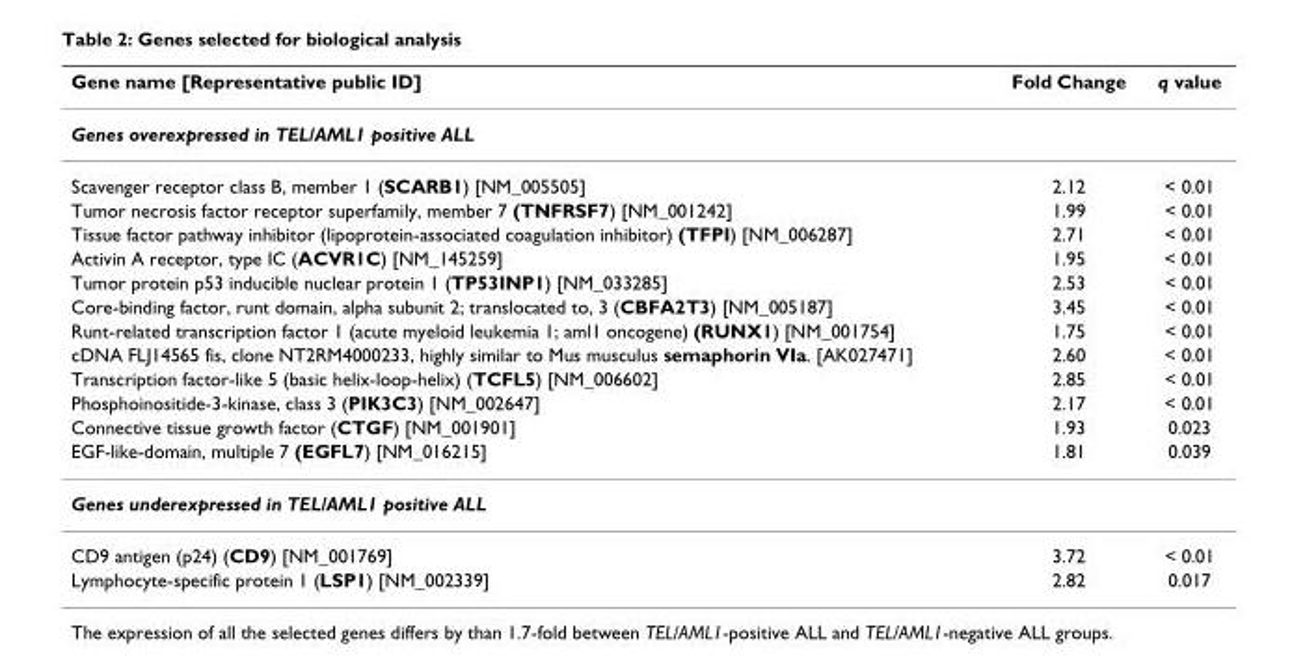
<table><thead><tr><td>Gene name [Representative public ID]</td><td>Fold Change</td><td>q value</td></tr></thead><tbody><tr><td colspan="3">Genes overexpressed in TEL/AML1 positive ALL</td></tr><tr><td>Scavenger receptor class B, member 1 (SCARB1) [NM_005505]</td><td>2.12</td><td>&lt; 0.01</td></tr><tr><td>Tumor necrosis factor receptor superfamily, member 7 (TNFRSF7) [NM_001242]</td><td>1.99</td><td>&lt; 0.01</td></tr><tr><td>Tissue factor pathway inhibitor (lipoprotein-associated coagulation inhibitor) (TFPI) [NM_006287]</td><td>2.71</td><td>&lt; 0.01</td></tr><tr><td>Activin A receptor, type IC (ACVR1C) [NM_145259]</td><td>1.95</td><td>&lt; 0.01</td></tr><tr><td>Tumor protein p53 inducible nuclear protein 1 (TP53INP1) [NM_033285]</td><td>2.53</td><td>&lt; 0.01</td></tr><tr><td>Core-binding factor, runt domain, alpha subunit 2; translocated to, 3 (CBFA2T3) [NM_005187]</td><td>3.45</td><td>&lt; 0.01</td></tr><tr><td>Runt-related transcription factor 1 (acute myeloid leukemia 1; aml1 oncogene) (RUNX1) [NM_001754]</td><td>1.75</td><td>&lt; 0.01</td></tr><tr><td>cDNA FLJ14565 fis, clone NT2RM4000233, highly similar to Mus musculus semaphorin VIa. [AK027471]</td><td>2.60</td><td>&lt; 0.01</td></tr><tr><td>Transcription factor-like 5 (basic helix-loop-helix) (TCFL5) [NM_006602]</td><td>2.85</td><td>&lt; 0.01</td></tr><tr><td>Phosphoinositide-3-kinase, class 3 (PIK3C3) [NM_002647]</td><td>2.17</td><td>&lt; 0.01</td></tr><tr><td>Connective tissue growth factor (CTGF) [NM_001901]</td><td>1.93</td><td>0.023</td></tr><tr><td>EGF-like-domain, multiple 7 (EGFL7) [NM_016215]</td><td>1.81</td><td>0.039</td></tr><tr><td colspan="3">Genes underexpressed in TEL/AML1 positive ALL</td></tr><tr><td>CD9 antigen (p24) (CD9) [NM_001769]</td><td>3.72</td><td>&lt; 0.01</td></tr><tr><td>Lymphocyte-specific protein 1 (LSP1) [NM_002339]</td><td>2.82</td><td>0.017</td></tr></tbody></table>